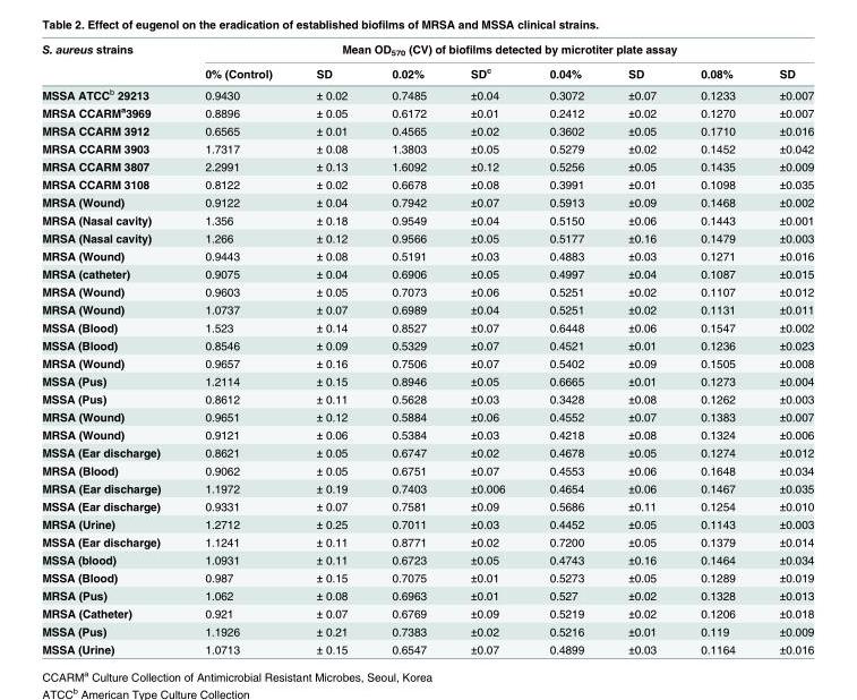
<table><thead><tr><td rowspan="2">S. aureus strains</td><td colspan="8">Mean OD<sub>570</sub> (CV) of biofilms detected by microtiter plate assay</td></tr><tr><td>0% (Control)</td><td>SD</td><td>0.02%</td><td>SD<sup>c</sup></td><td>0.04%</td><td>SD</td><td>0.08%</td><td>SD</td></tr></thead><tbody><tr><td>MSSA ATCC<sup>b</sup> 29213</td><td>0.9430</td><td>± 0.02</td><td>0.7485</td><td>±0.04</td><td>0.3072</td><td>±0.07</td><td>0.1233</td><td>±0.007</td></tr><tr><td>MRSA CCARM<sup>a</sup>3969</td><td>0.8896</td><td>± 0.05</td><td>0.6172</td><td>±0.01</td><td>0.2412</td><td>±0.02</td><td>0.1270</td><td>±0.007</td></tr><tr><td>MRSA CCARM 3912</td><td>0.6565</td><td>± 0.01</td><td>0.4565</td><td>±0.02</td><td>0.3602</td><td>±0.05</td><td>0.1710</td><td>±0.016</td></tr><tr><td>MRSA CCARM 3903</td><td>1.7317</td><td>± 0.08</td><td>1.3803</td><td>±0.05</td><td>0.5279</td><td>±0.02</td><td>0.1452</td><td>±0.042</td></tr><tr><td>MRSA CCARM 3807</td><td>2.2991</td><td>± 0.13</td><td>1.6092</td><td>±0.12</td><td>0.5256</td><td>±0.05</td><td>0.1435</td><td>±0.009</td></tr><tr><td>MRSA CCARM 3108</td><td>0.8122</td><td>± 0.02</td><td>0.6678</td><td>±0.08</td><td>0.3991</td><td>±0.01</td><td>0.1098</td><td>±0.035</td></tr><tr><td>MRSA (Wound)</td><td>0.9122</td><td>± 0.04</td><td>0.7942</td><td>±0.07</td><td>0.5913</td><td>±0.09</td><td>0.1468</td><td>±0.002</td></tr><tr><td>MRSA (Nasal cavity)</td><td>1.356</td><td>± 0.18</td><td>0.9549</td><td>±0.04</td><td>0.5150</td><td>±0.06</td><td>0.1443</td><td>±0.001</td></tr><tr><td>MRSA (Nasal cavity)</td><td>1.266</td><td>± 0.12</td><td>0.9566</td><td>±0.05</td><td>0.5177</td><td>±0.16</td><td>0.1479</td><td>±0.003</td></tr><tr><td>MRSA (Wound)</td><td>0.9443</td><td>± 0.08</td><td>0.5191</td><td>±0.03</td><td>0.4883</td><td>±0.03</td><td>0.1271</td><td>±0.016</td></tr><tr><td>MRSA (catheter)</td><td>0.9075</td><td>± 0.04</td><td>0.6906</td><td>±0.05</td><td>0.4997</td><td>±0.04</td><td>0.1087</td><td>±0.015</td></tr><tr><td>MRSA (Wound)</td><td>0.9603</td><td>± 0.05</td><td>0.7073</td><td>±0.06</td><td>0.5251</td><td>±0.02</td><td>0.1107</td><td>±0.012</td></tr><tr><td>MRSA (Wound)</td><td>1.0737</td><td>± 0.07</td><td>0.6989</td><td>±0.04</td><td>0.5251</td><td>±0.02</td><td>0.1131</td><td>±0.011</td></tr><tr><td>MSSA (Blood)</td><td>1.523</td><td>± 0.14</td><td>0.8527</td><td>±0.07</td><td>0.6448</td><td>±0.06</td><td>0.1547</td><td>±0.002</td></tr><tr><td>MSSA (Blood)</td><td>0.8546</td><td>± 0.09</td><td>0.5329</td><td>±0.07</td><td>0.4521</td><td>±0.01</td><td>0.1236</td><td>±0.023</td></tr><tr><td>MRSA (Wound)</td><td>0.9657</td><td>± 0.16</td><td>0.7506</td><td>±0.07</td><td>0.5402</td><td>±0.09</td><td>0.1505</td><td>±0.008</td></tr><tr><td>MSSA (Pus)</td><td>1.2114</td><td>± 0.15</td><td>0.8946</td><td>±0.05</td><td>0.6665</td><td>±0.01</td><td>0.1273</td><td>±0.004</td></tr><tr><td>MSSA (Pus)</td><td>0.8612</td><td>± 0.11</td><td>0.5628</td><td>±0.03</td><td>0.3428</td><td>±0.08</td><td>0.1262</td><td>±0.003</td></tr><tr><td>MRSA (Wound)</td><td>0.9651</td><td>± 0.12</td><td>0.5884</td><td>±0.06</td><td>0.4552</td><td>±0.07</td><td>0.1383</td><td>±0.007</td></tr><tr><td>MRSA (Wound)</td><td>0.9121</td><td>± 0.06</td><td>0.5384</td><td>±0.03</td><td>0.4218</td><td>±0.08</td><td>0.1324</td><td>±0.006</td></tr><tr><td>MSSA (Ear discharge)</td><td>0.8621</td><td>± 0.05</td><td>0.6747</td><td>±0.02</td><td>0.4678</td><td>±0.05</td><td>0.1274</td><td>±0.012</td></tr><tr><td>MRSA (Blood)</td><td>0.9062</td><td>± 0.05</td><td>0.6751</td><td>±0.07</td><td>0.4553</td><td>±0.06</td><td>0.1648</td><td>±0.034</td></tr><tr><td>MRSA (Ear discharge)</td><td>1.1972</td><td>± 0.19</td><td>0.7403</td><td>±0.006</td><td>0.4654</td><td>±0.06</td><td>0.1467</td><td>±0.035</td></tr><tr><td>MSSA (Ear discharge)</td><td>0.9331</td><td>± 0.07</td><td>0.7581</td><td>±0.09</td><td>0.5686</td><td>±0.11</td><td>0.1254</td><td>±0.010</td></tr><tr><td>MRSA (Urine)</td><td>1.2712</td><td>± 0.25</td><td>0.7011</td><td>±0.03</td><td>0.4452</td><td>±0.05</td><td>0.1143</td><td>±0.003</td></tr><tr><td>MSSA (Ear discharge)</td><td>1.1241</td><td>± 0.11</td><td>0.8771</td><td>±0.02</td><td>0.7200</td><td>±0.05</td><td>0.1379</td><td>±0.014</td></tr><tr><td>MSSA (blood)</td><td>1.0931</td><td>± 0.11</td><td>0.6723</td><td>±0.05</td><td>0.4743</td><td>±0.16</td><td>0.1464</td><td>±0.034</td></tr><tr><td>MSSA (Blood)</td><td>0.987</td><td>± 0.15</td><td>0.7075</td><td>±0.01</td><td>0.5273</td><td>±0.05</td><td>0.1289</td><td>±0.019</td></tr><tr><td>MRSA (Pus)</td><td>1.062</td><td>± 0.08</td><td>0.6963</td><td>±0.01</td><td>0.527</td><td>±0.02</td><td>0.1328</td><td>±0.013</td></tr><tr><td>MRSA (Catheter)</td><td>0.921</td><td>± 0.07</td><td>0.6769</td><td>±0.09</td><td>0.5219</td><td>±0.02</td><td>0.1206</td><td>±0.018</td></tr><tr><td>MSSA (Pus)</td><td>1.1926</td><td>± 0.21</td><td>0.7383</td><td>±0.02</td><td>0.5216</td><td>±0.01</td><td>0.119</td><td>±0.009</td></tr><tr><td>MSSA (Urine)</td><td>1.0713</td><td>± 0.15</td><td>0.6547</td><td>±0.07</td><td>0.4899</td><td>±0.03</td><td>0.1164</td><td>±0.016</td></tr></tbody></table>